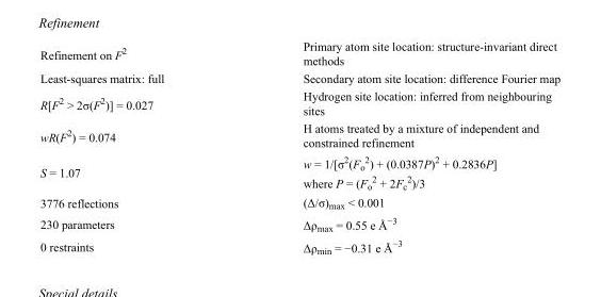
<table><tbody><tr><td>Refinement on F<sup>2</sup></td><td>Primary atom site location: structure-invariant direct methods</td></tr><tr><td>Least-squares matrix: full</td><td>Secondary atom site location: difference Fourier map</td></tr><tr><td>R[F<sup>2</sup> &gt; 2σ(F<sup>2</sup>)] = 0.027</td><td>Hydrogen site location: inferred from neighbouring sites</td></tr><tr><td>wR(F<sup>2</sup>) = 0.074</td><td>H atoms treated by a mixture of independent and constrained refinement</td></tr><tr><td>S = 1.07</td><td>w = 1/[σ<sup>2</sup>(F<sub>o</sub> <sup>2</sup>) + (0.0387P)<sup>2</sup> + 0.2836P] where P = (F<sub>o</sub> <sup>2</sup> + 2F<sub>c</sub> <sup>2</sup>)/3</td></tr><tr><td>3776 reflections</td><td>(Δ/σ)<sub>max</sub> &lt; 0.001</td></tr><tr><td>230 parameters</td><td>Δρ<sub>max</sub> = 0.55 e Å<sup>−3</sup></td></tr><tr><td>0 restraints</td><td>Δρ<sub>min</sub> = −0.31 e Å<sup>−3</sup></td></tr></tbody></table>